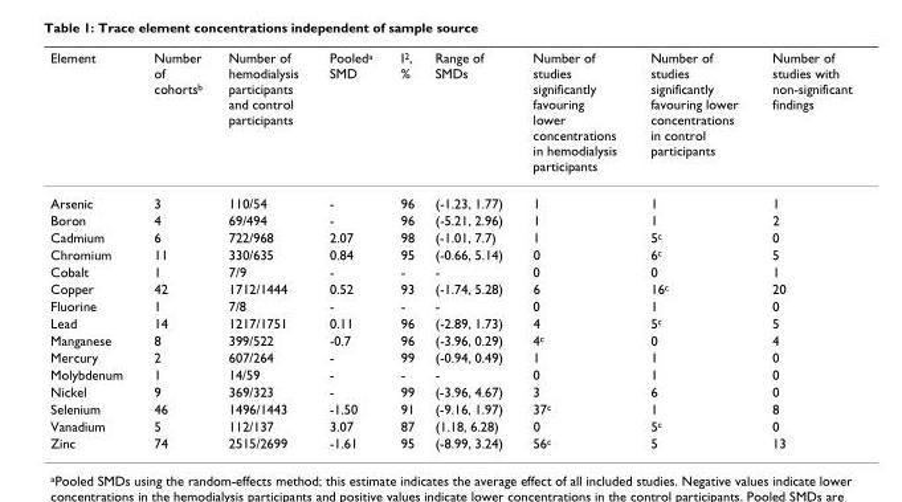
<table><thead><tr><td>Element</td><td>Number of cohorts<sup>b</sup></td><td>Number of hemodialysis participants and control participants</td><td>Pooled<sup>a</sup> SMD</td><td>I<sup>2</sup>, %</td><td>Range of SMDs</td><td>Number of studies significantly favouring lower concentrations in hemodialysis participants</td><td>Number of studies significantly favouring lower concentrations in control participants</td><td>Number of studies with non-significant findings</td></tr></thead><tbody><tr><td>Arsenic</td><td>3</td><td>110/54</td><td>-</td><td>96</td><td>(-1.23, 1.77)</td><td>1</td><td>1</td><td>1</td></tr><tr><td>Boron</td><td>4</td><td>69/494</td><td>-</td><td>96</td><td>(-5.21, 2.96)</td><td>1</td><td>1</td><td>2</td></tr><tr><td>Cadmium</td><td>6</td><td>722/968</td><td>2.07</td><td>98</td><td>(-1.01, 7.7)</td><td>1</td><td>5<sup>c</sup></td><td>0</td></tr><tr><td>Chromium</td><td>11</td><td>330/635</td><td>0.84</td><td>95</td><td>(-0.66, 5.14)</td><td>0</td><td>6<sup>c</sup></td><td>5</td></tr><tr><td>Cobalt</td><td>1</td><td>7/9</td><td>-</td><td>-</td><td>-</td><td>0</td><td>0</td><td>1</td></tr><tr><td>Copper</td><td>42</td><td>1712/1444</td><td>0.52</td><td>93</td><td>(-1.74, 5.28)</td><td>6</td><td>16<sup>c</sup></td><td>20</td></tr><tr><td>Fluorine</td><td>1</td><td>7/8</td><td>-</td><td>-</td><td>-</td><td>0</td><td>1</td><td>0</td></tr><tr><td>Lead</td><td>14</td><td>1217/1751</td><td>0.11</td><td>96</td><td>(-2.89, 1.73)</td><td>4</td><td>5<sup>c</sup></td><td>5</td></tr><tr><td>Manganese</td><td>8</td><td>399/522</td><td>-0.7</td><td>96</td><td>(-3.96, 0.29)</td><td>4<sup>c</sup></td><td>0</td><td>4</td></tr><tr><td>Mercury</td><td>2</td><td>607/264</td><td>-</td><td>99</td><td>(-0.94, 0.49)</td><td>1</td><td>1</td><td>0</td></tr><tr><td>Molybdenum</td><td>1</td><td>14/59</td><td>-</td><td>-</td><td>-</td><td>0</td><td>1</td><td>0</td></tr><tr><td>Nickel</td><td>9</td><td>369/323</td><td>-</td><td>99</td><td>(-3.96, 4.67)</td><td>3</td><td>6</td><td>0</td></tr><tr><td>Selenium</td><td>46</td><td>1496/1443</td><td>-1.50</td><td>91</td><td>(-9.16, 1.97)</td><td>37<sup>c</sup></td><td>1</td><td>8</td></tr><tr><td>Vanadium</td><td>5</td><td>112/137</td><td>3.07</td><td>87</td><td>(1.18, 6.28)</td><td>0</td><td>5<sup>c</sup></td><td>0</td></tr><tr><td>Zinc</td><td>74</td><td>2515/2699</td><td>-1.61</td><td>95</td><td>(-8.99, 3.24)</td><td>56<sup>c</sup></td><td>5</td><td>13</td></tr></tbody></table>